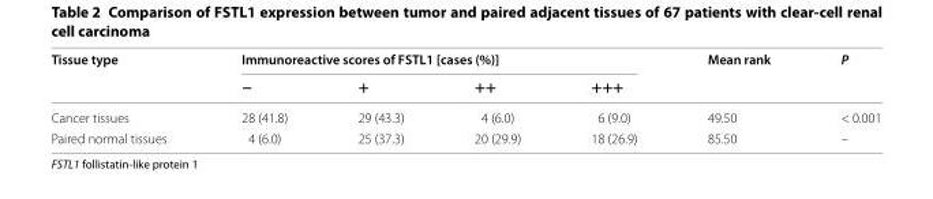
<table><thead><tr><td rowspan="2">Tissue type</td><td colspan="4">Immunoreactive scores of FSTL1 [cases (%)]</td><td rowspan="2">Mean rank</td><td rowspan="2">P</td></tr><tr><td>−</td><td>+</td><td>++</td><td>+++</td></tr></thead><tbody><tr><td>Cancer tissues</td><td>28 (41.8)</td><td>29 (43.3)</td><td>4 (6.0)</td><td>6 (9.0)</td><td>49.50</td><td>&lt; 0.001</td></tr><tr><td>Paired normal tissues</td><td>4 (6.0)</td><td>25 (37.3)</td><td>20 (29.9)</td><td>18 (26.9)</td><td>85.50</td><td>–</td></tr></tbody></table>